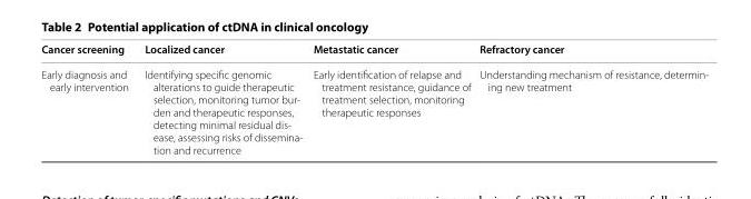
<table><thead><tr><td>Cancer screening</td><td>Localized cancer</td><td>Metastatic cancer</td><td>Refractory cancer</td></tr></thead><tbody><tr><td>Early diagnosis and early intervention</td><td>Identifying specific genomic alterations to guide therapeutic selection, monitoring tumor bur- den and therapeutic responses, detecting minimal residual dis- ease, assessing risks of dissemina- tion and recurrence</td><td>Early identification of relapse and treatment resistance, guidance of treatment selection, monitoring therapeutic responses</td><td>Understanding mechanism of resistance, determin- ing new treatment</td></tr></tbody></table>